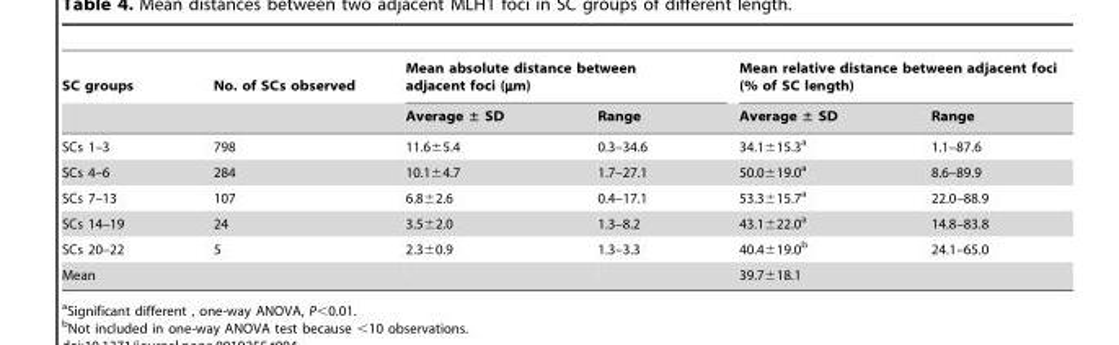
<table><thead><tr><td rowspan="2">SC groups</td><td rowspan="2">No. of SCs observed</td><td colspan="2">Mean absolute distance between adjacent foci (µm)</td><td colspan="2">Mean relative distance between adjacent foci (% of SC length)</td></tr><tr><td>Average ± SD</td><td>Range</td><td>Average ± SD</td><td>Range</td></tr></thead><tbody><tr><td>SCs 1–3</td><td>798</td><td>11.6±5.4</td><td>0.3–34.6</td><td>34.1±15.3<sup>a</sup></td><td>1.1–87.6</td></tr><tr><td>SCs 4–6</td><td>284</td><td>10.1±4.7</td><td>1.7–27.1</td><td>50.0±19.0<sup>a</sup></td><td>8.6–89.9</td></tr><tr><td>SCs 7–13</td><td>107</td><td>6.8±2.6</td><td>0.4–17.1</td><td>53.3±15.7<sup>a</sup></td><td>22.0–88.9</td></tr><tr><td>SCs 14–19</td><td>24</td><td>3.5±2.0</td><td>1.3–8.2</td><td>43.1±22.0<sup>a</sup></td><td>14.8–83.8</td></tr><tr><td>SCs 20–22</td><td>5</td><td>2.3±0.9</td><td>1.3–3.3</td><td>40.4±19.0<sup>b</sup></td><td>24.1–65.0</td></tr><tr><td>Mean</td><td></td><td></td><td></td><td>39.7±18.1</td><td></td></tr></tbody></table>